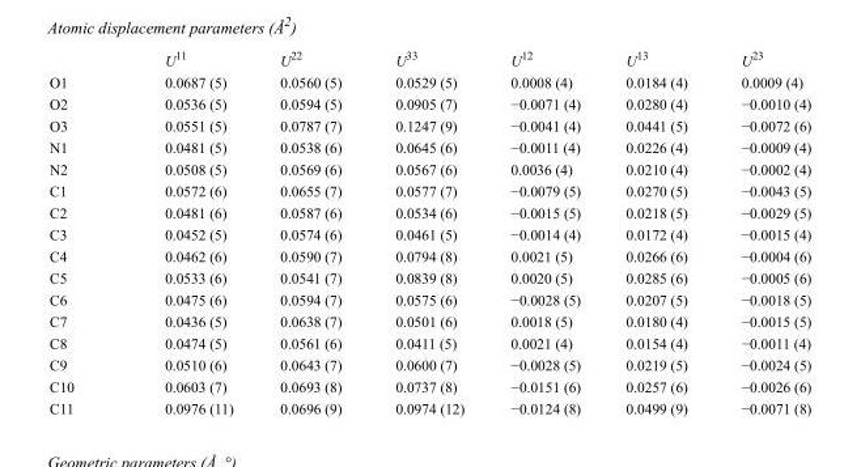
<table><thead><tr><td></td><td>U<sup>11</sup></td><td>U<sup>22</sup></td><td>U<sup>33</sup></td><td>U<sup>12</sup></td><td>U<sup>13</sup></td><td>U<sup>23</sup></td></tr></thead><tbody><tr><td>O1</td><td>0.0687 (5)</td><td>0.0560 (5)</td><td>0.0529 (5)</td><td>0.0008 (4)</td><td>0.0184 (4)</td><td>0.0009 (4)</td></tr><tr><td>O2</td><td>0.0536 (5)</td><td>0.0594 (5)</td><td>0.0905 (7)</td><td>−0.0071 (4)</td><td>0.0280 (4)</td><td>−0.0010 (4)</td></tr><tr><td>O3</td><td>0.0551 (5)</td><td>0.0787 (7)</td><td>0.1247 (9)</td><td>−0.0041 (4)</td><td>0.0441 (5)</td><td>−0.0072 (6)</td></tr><tr><td>N1</td><td>0.0481 (5)</td><td>0.0538 (6)</td><td>0.0645 (6)</td><td>−0.0011 (4)</td><td>0.0226 (4)</td><td>−0.0009 (4)</td></tr><tr><td>N2</td><td>0.0508 (5)</td><td>0.0569 (6)</td><td>0.0567 (6)</td><td>0.0036 (4)</td><td>0.0210 (4)</td><td>−0.0002 (4)</td></tr><tr><td>C1</td><td>0.0572 (6)</td><td>0.0655 (7)</td><td>0.0577 (7)</td><td>−0.0079 (5)</td><td>0.0270 (5)</td><td>−0.0043 (5)</td></tr><tr><td>C2</td><td>0.0481 (6)</td><td>0.0587 (6)</td><td>0.0534 (6)</td><td>−0.0015 (5)</td><td>0.0218 (5)</td><td>−0.0029 (5)</td></tr><tr><td>C3</td><td>0.0452 (5)</td><td>0.0574 (6)</td><td>0.0461 (5)</td><td>−0.0014 (4)</td><td>0.0172 (4)</td><td>−0.0015 (4)</td></tr><tr><td>C4</td><td>0.0462 (6)</td><td>0.0590 (7)</td><td>0.0794 (8)</td><td>0.0021 (5)</td><td>0.0266 (6)</td><td>−0.0004 (6)</td></tr><tr><td>C5</td><td>0.0533 (6)</td><td>0.0541 (7)</td><td>0.0839 (8)</td><td>0.0020 (5)</td><td>0.0285 (6)</td><td>−0.0005 (6)</td></tr><tr><td>C6</td><td>0.0475 (6)</td><td>0.0594 (7)</td><td>0.0575 (6)</td><td>−0.0028 (5)</td><td>0.0207 (5)</td><td>−0.0018 (5)</td></tr><tr><td>C7</td><td>0.0436 (5)</td><td>0.0638 (7)</td><td>0.0501 (6)</td><td>0.0018 (5)</td><td>0.0180 (4)</td><td>−0.0015 (5)</td></tr><tr><td>C8</td><td>0.0474 (5)</td><td>0.0561 (6)</td><td>0.0411 (5)</td><td>0.0021 (4)</td><td>0.0154 (4)</td><td>−0.0011 (4)</td></tr><tr><td>C9</td><td>0.0510 (6)</td><td>0.0643 (7)</td><td>0.0600 (7)</td><td>−0.0028 (5)</td><td>0.0219 (5)</td><td>−0.0024 (5)</td></tr><tr><td>C10</td><td>0.0603 (7)</td><td>0.0693 (8)</td><td>0.0737 (8)</td><td>−0.0151 (6)</td><td>0.0257 (6)</td><td>−0.0026 (6)</td></tr><tr><td>C11</td><td>0.0976 (11)</td><td>0.0696 (9)</td><td>0.0974 (12)</td><td>−0.0124 (8)</td><td>0.0499 (9)</td><td>−0.0071 (8)</td></tr></tbody></table>